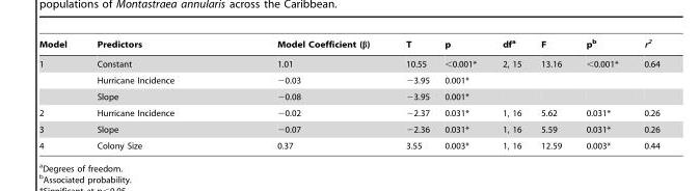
<table><thead><tr><td>Model</td><td>Predictors</td><td>Model Coefficient (β)</td><td>T</td><td>p</td><td>df<sup>a</sup></td><td>F</td><td>p<sup>b</sup></td><td>r<sup>2</sup></td></tr></thead><tbody><tr><td rowspan="3">1</td><td>Constant</td><td>1.01</td><td>10.55</td><td>&lt;0.001*</td><td>2, 15</td><td>13.16</td><td>&lt;0.001*</td><td>0.64</td></tr><tr><td>Hurricane Incidence</td><td>−0.03</td><td>−3.95</td><td>0.001*</td><td></td><td></td><td></td><td></td></tr><tr><td>Slope</td><td>−0.08</td><td>−3.95</td><td>0.001*</td><td></td><td></td><td></td><td></td></tr><tr><td>2</td><td>Hurricane Incidence</td><td>−0.02</td><td>−2.37</td><td>0.031*</td><td>1, 16</td><td>5.62</td><td>0.031*</td><td>0.26</td></tr><tr><td>3</td><td>Slope</td><td>−0.07</td><td>−2.36</td><td>0.031*</td><td>1, 16</td><td>5.59</td><td>0.031*</td><td>0.26</td></tr><tr><td>4</td><td>Colony Size</td><td>0.37</td><td>3.55</td><td>0.003*</td><td>1, 16</td><td>12.59</td><td>0.003*</td><td>0.44</td></tr></tbody></table>